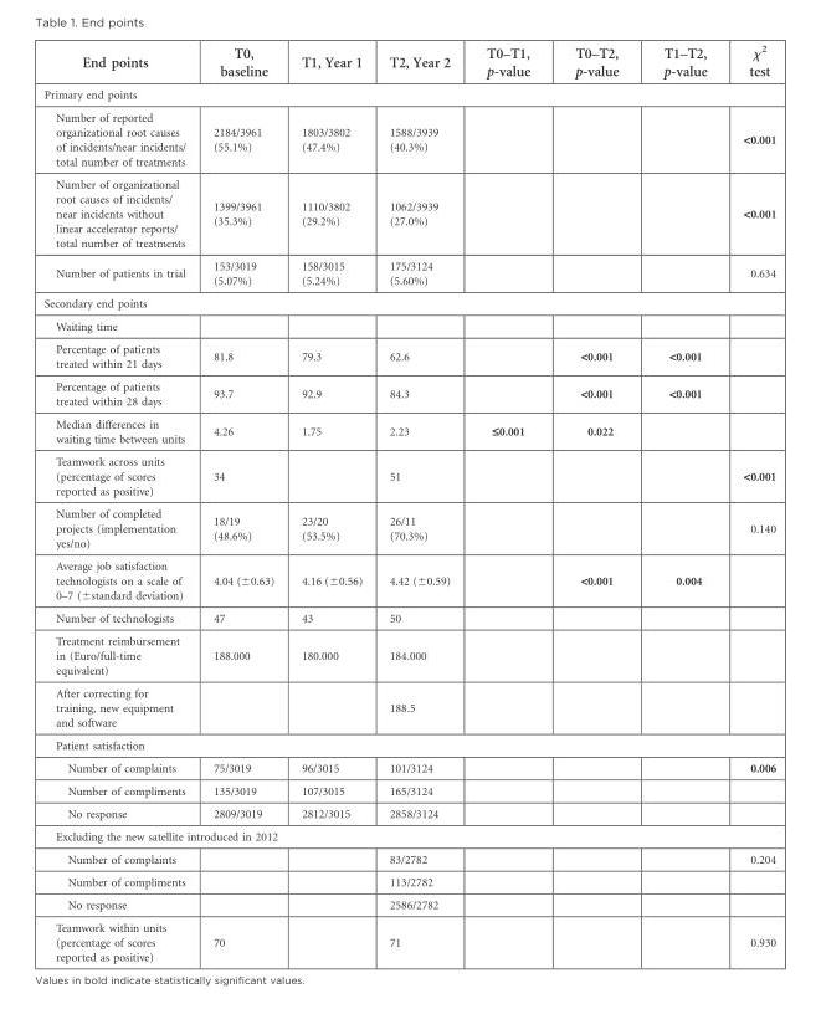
<table><thead><tr><td>End points</td><td>T0, baseline</td><td>T1, Year 1</td><td>T2, Year 2</td><td>T0–T1, p-value</td><td>T0–T2, p-value</td><td>T1–T2, p-value</td><td>χ<sup>2</sup> test</td></tr></thead><tbody><tr><td colspan="8">Primary end points</td></tr><tr><td>Number of reported organizational root causes of incidents/near incidents/ total number of treatments</td><td>2184/3961 (55.1%)</td><td>1803/3802 (47.4%)</td><td>1588/3939 (40.3%)</td><td></td><td></td><td></td><td>&lt;0.001</td></tr><tr><td>Number of organizational root causes of incidents/ near incidents without linear accelerator reports/ total number of treatments</td><td>1399/3961 (35.3%)</td><td>1110/3802 (29.2%)</td><td>1062/3939 (27.0%)</td><td></td><td></td><td></td><td>&lt;0.001</td></tr><tr><td>Number of patients in trial</td><td>153/3019 (5.07%)</td><td>158/3015 (5.24%)</td><td>175/3124 (5.60%)</td><td></td><td></td><td></td><td>0.634</td></tr><tr><td colspan="8">Secondary end points</td></tr><tr><td colspan="8">Waiting time</td></tr><tr><td>Percentage of patients treated within 21 days</td><td>81.8</td><td>79.3</td><td>62.6</td><td></td><td>&lt;0.001</td><td>&lt;0.001</td><td></td></tr><tr><td>Percentage of patients treated within 28 days</td><td>93.7</td><td>92.9</td><td>84.3</td><td></td><td>&lt;0.001</td><td>&lt;0.001</td><td></td></tr><tr><td>Median differences in waiting time between units</td><td>4.26</td><td>1.75</td><td>2.23</td><td>≤0.001</td><td>0.022</td><td></td><td></td></tr><tr><td>Teamwork across units (percentage of scores reported as positive)</td><td>34</td><td></td><td>51</td><td></td><td></td><td></td><td>&lt;0.001</td></tr><tr><td>Number of completed projects (implementation yes/no)</td><td>18/19 (48.6%)</td><td>23/20 (53.5%)</td><td>26/11 (70.3%)</td><td></td><td></td><td></td><td>0.140</td></tr><tr><td>Average job satisfaction technologists on a scale of 0–7 (±standard deviation)</td><td>4.04 (±0.63)</td><td>4.16 (±0.56)</td><td>4.42 (±0.59)</td><td></td><td>&lt;0.001</td><td>0.004</td><td></td></tr><tr><td>Number of technologists</td><td>47</td><td>43</td><td>50</td><td></td><td></td><td></td><td></td></tr><tr><td>Treatment reimbursement in (Euro/full-time equivalent)</td><td>188.000</td><td>180.000</td><td>184.000</td><td></td><td></td><td></td><td></td></tr><tr><td>After correcting for training, new equipment and software</td><td></td><td></td><td>188.5</td><td></td><td></td><td></td><td></td></tr><tr><td colspan="8">Patient satisfaction</td></tr><tr><td>Number of complaints</td><td>75/3019</td><td>96/3015</td><td>101/3124</td><td></td><td></td><td></td><td>0.006</td></tr><tr><td>Number of compliments</td><td>135/3019</td><td>107/3015</td><td>165/3124</td><td></td><td></td><td></td><td></td></tr><tr><td>No response</td><td>2809/3019</td><td>2812/3015</td><td>2858/3124</td><td></td><td></td><td></td><td></td></tr><tr><td colspan="8">Excluding the new satellite introduced in 2012</td></tr><tr><td>Number of complaints</td><td></td><td></td><td>83/2782</td><td></td><td></td><td></td><td>0.204</td></tr><tr><td>Number of compliments</td><td></td><td></td><td>113/2782</td><td></td><td></td><td></td><td></td></tr><tr><td>No response</td><td></td><td></td><td>2586/2782</td><td></td><td></td><td></td><td></td></tr><tr><td>Teamwork within units (percentage of scores reported as positive)</td><td>70</td><td></td><td>71</td><td></td><td></td><td></td><td>0.930</td></tr></tbody></table>